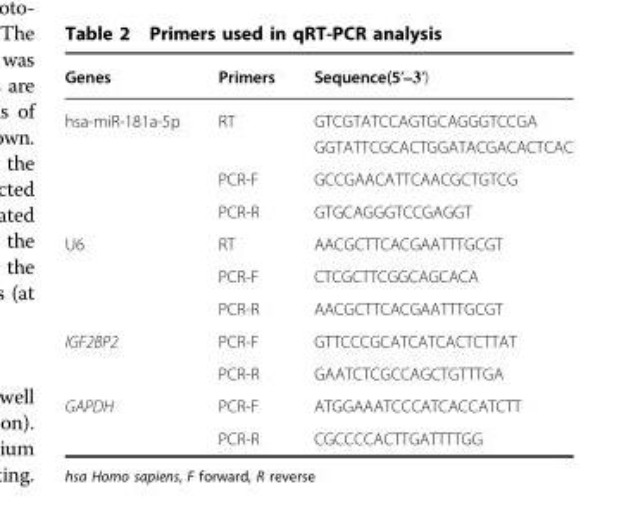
<table><thead><tr><td>Genes</td><td>Primers</td><td>Sequence(5ʹ–3ʹ)</td></tr></thead><tbody><tr><td rowspan="3">hsa-miR-181a-5p</td><td>RT</td><td>GTCGTATCCAGTGCAGGGTCCGA GGTATTCGCACTGGATACGACACTCAC</td></tr><tr><td>PCR-F</td><td>GCCGAACATTCAACGCTGTCG</td></tr><tr><td>PCR-R</td><td>GTGCAGGGTCCGAGGT</td></tr><tr><td rowspan="3">U6</td><td>RT</td><td>AACGCTTCACGAATTTGCGT</td></tr><tr><td>PCR-F</td><td>CTCGCTTCGGCAGCACA</td></tr><tr><td>PCR-R</td><td>AACGCTTCACGAATTTGCGT</td></tr><tr><td rowspan="2">IGF2BP2</td><td>PCR-F</td><td>GTTCCCGCATCATCACTCTTAT</td></tr><tr><td>PCR-R</td><td>GAATCTCGCCAGCTGTTTGA</td></tr><tr><td rowspan="2">GAPDH</td><td>PCR-F</td><td>ATGGAAATCCCATCACCATCTT</td></tr><tr><td>PCR-R</td><td>CGCCCCACTTGATTTTGG</td></tr></tbody></table>